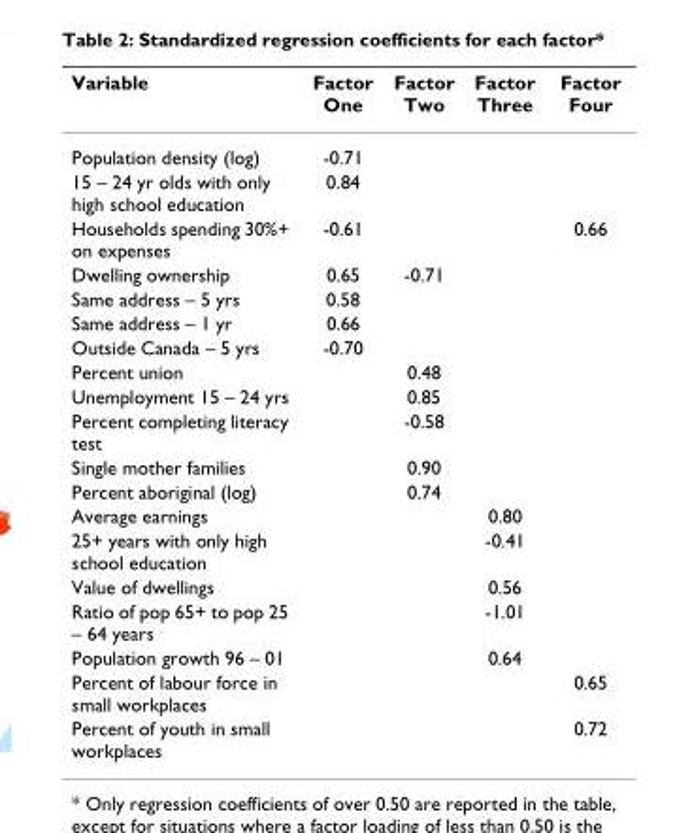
<table><thead><tr><td>Variable</td><td>Factor One</td><td>Factor Two</td><td>Factor Three</td><td>Factor Four</td></tr></thead><tbody><tr><td>Population density (log)</td><td>-0.71</td><td></td><td></td><td></td></tr><tr><td>15 – 24 yr olds with only high school education</td><td>0.84</td><td></td><td></td><td></td></tr><tr><td>Households spending 30%+ on expenses</td><td>-0.61</td><td></td><td></td><td>0.66</td></tr><tr><td>Dwelling ownership</td><td>0.65</td><td>-0.71</td><td></td><td></td></tr><tr><td>Same address – 5 yrs</td><td>0.58</td><td></td><td></td><td></td></tr><tr><td>Same address – 1 yr</td><td>0.66</td><td></td><td></td><td></td></tr><tr><td>Outside Canada – 5 yrs</td><td>-0.70</td><td></td><td></td><td></td></tr><tr><td>Percent union</td><td></td><td>0.48</td><td></td><td></td></tr><tr><td>Unemployment 15 – 24 yrs</td><td></td><td>0.85</td><td></td><td></td></tr><tr><td>Percent completing literacy test</td><td></td><td>-0.58</td><td></td><td></td></tr><tr><td>Single mother families</td><td></td><td>0.90</td><td></td><td></td></tr><tr><td>Percent aboriginal (log)</td><td></td><td>0.74</td><td></td><td></td></tr><tr><td>Average earnings</td><td></td><td></td><td>0.80</td><td></td></tr><tr><td>25+ years with only high school education</td><td></td><td></td><td>-0.41</td><td></td></tr><tr><td>Value of dwellings</td><td></td><td></td><td>0.56</td><td></td></tr><tr><td>Ratio of pop 65+ to pop 25 – 64 years</td><td></td><td></td><td>-1.01</td><td></td></tr><tr><td>Population growth 96 – 01</td><td></td><td></td><td>0.64</td><td></td></tr><tr><td>Percent of labour force in small workplaces</td><td></td><td></td><td></td><td>0.65</td></tr><tr><td>Percent of youth in small workplaces</td><td></td><td></td><td></td><td>0.72</td></tr></tbody></table>